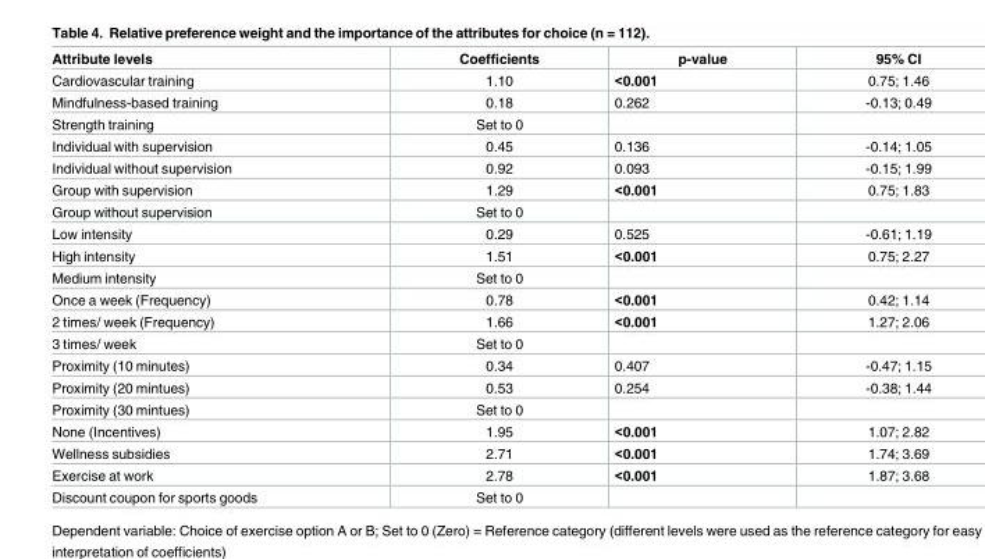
<table><thead><tr><td>Attribute levels</td><td>Coefficients</td><td>p-value</td><td>95% CI</td></tr></thead><tbody><tr><td>Cardiovascular training</td><td>1.10</td><td>&lt;0.001</td><td>0.75; 1.46</td></tr><tr><td>Mindfulness-based training</td><td>0.18</td><td>0.262</td><td>-0.13; 0.49</td></tr><tr><td>Strength training</td><td>Set to 0</td><td></td><td></td></tr><tr><td>Individual with supervision</td><td>0.45</td><td>0.136</td><td>-0.14; 1.05</td></tr><tr><td>Individual without supervision</td><td>0.92</td><td>0.093</td><td>-0.15; 1.99</td></tr><tr><td>Group with supervision</td><td>1.29</td><td>&lt;0.001</td><td>0.75; 1.83</td></tr><tr><td>Group without supervision</td><td>Set to 0</td><td></td><td></td></tr><tr><td>Low intensity</td><td>0.29</td><td>0.525</td><td>-0.61; 1.19</td></tr><tr><td>High intensity</td><td>1.51</td><td>&lt;0.001</td><td>0.75; 2.27</td></tr><tr><td>Medium intensity</td><td>Set to 0</td><td></td><td></td></tr><tr><td>Once a week (Frequency)</td><td>0.78</td><td>&lt;0.001</td><td>0.42; 1.14</td></tr><tr><td>2 times/ week (Frequency)</td><td>1.66</td><td>&lt;0.001</td><td>1.27; 2.06</td></tr><tr><td>3 times/ week</td><td>Set to 0</td><td></td><td></td></tr><tr><td>Proximity (10 minutes)</td><td>0.34</td><td>0.407</td><td>-0.47; 1.15</td></tr><tr><td>Proximity (20 mintues)</td><td>0.53</td><td>0.254</td><td>-0.38; 1.44</td></tr><tr><td>Proximity (30 mintues)</td><td>Set to 0</td><td></td><td></td></tr><tr><td>None (Incentives)</td><td>1.95</td><td>&lt;0.001</td><td>1.07; 2.82</td></tr><tr><td>Wellness subsidies</td><td>2.71</td><td>&lt;0.001</td><td>1.74; 3.69</td></tr><tr><td>Exercise at work</td><td>2.78</td><td>&lt;0.001</td><td>1.87; 3.68</td></tr><tr><td>Discount coupon for sports goods</td><td>Set to 0</td><td></td><td></td></tr></tbody></table>